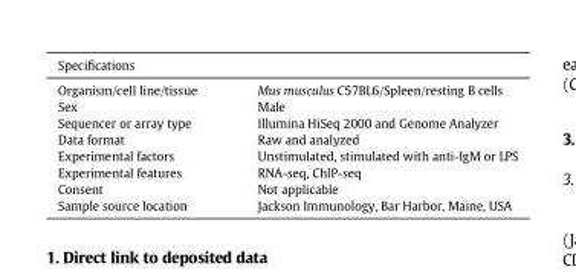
<table><thead><tr><td colspan="2">Specifications</td></tr><tr><td>Organism/cell line/tissue</td><td>Mus musculus C57BL6/Spleen/resting B cells</td></tr></thead><tbody><tr><td>Sex</td><td>Male</td></tr><tr><td>Sequencer or array type</td><td>Illumina HiSeq 2000 and Genome Analyzer</td></tr><tr><td>Data format</td><td>Raw and analyzed</td></tr><tr><td>Experimental factors</td><td>Unstimulated, stimulated with anti-IgM or LPS</td></tr><tr><td>Experimental features</td><td>RNA-seq, ChIP-seq</td></tr><tr><td>Consent</td><td>Not applicable</td></tr><tr><td>Sample source location</td><td>Jackson Immunology, Bar Harbor, Maine, USA</td></tr></tbody></table>